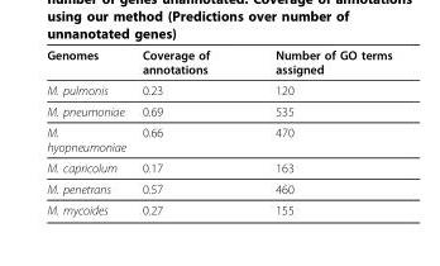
<table><thead><tr><td>Genomes</td><td>Coverage of annotations</td><td>Number of GO terms assigned</td></tr></thead><tbody><tr><td>M. pulmonis</td><td>0.23</td><td>120</td></tr><tr><td>M. pneumoniae</td><td>0.69</td><td>535</td></tr><tr><td>M. hyopneumoniae</td><td>0.66</td><td>470</td></tr><tr><td>M. capricolum</td><td>0.17</td><td>163</td></tr><tr><td>M. penetrans</td><td>0.57</td><td>460</td></tr><tr><td>M. mycoides</td><td>0.27</td><td>155</td></tr></tbody></table>